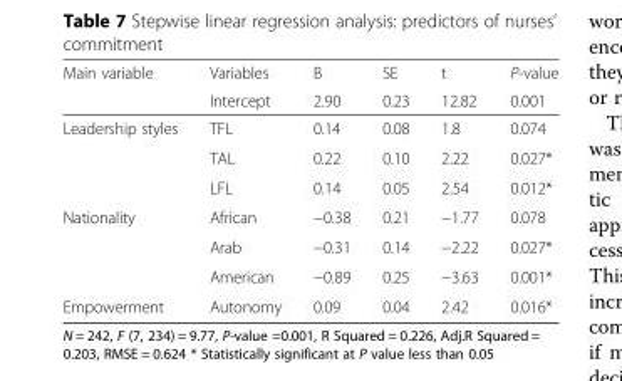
<table><thead><tr><td rowspan="2">Main variable</td><td rowspan="2">Variables Intercept</td><td rowspan="2">B 2.90</td><td rowspan="2">SE 0.23</td><td rowspan="2">t 12.82</td><td rowspan="2">P-value 0.001</td></tr><tr></tr></thead><tbody><tr><td rowspan="3">Leadership styles</td><td>TFL</td><td>0.14</td><td>0.08</td><td>1.8</td><td>0.074</td></tr><tr><td>TAL</td><td>0.22</td><td>0.10</td><td>2.22</td><td>0.027*</td></tr><tr><td>LFL</td><td>0.14</td><td>0.05</td><td>2.54</td><td>0.012*</td></tr><tr><td rowspan="3">Nationality</td><td>African</td><td>−0.38</td><td>0.21</td><td>−1.77</td><td>0.078</td></tr><tr><td>Arab</td><td>−0.31</td><td>0.14</td><td>−2.22</td><td>0.027*</td></tr><tr><td>American</td><td>−0.89</td><td>0.25</td><td>−3.63</td><td>0.001*</td></tr><tr><td>Empowerment</td><td>Autonomy</td><td>0.09</td><td>0.04</td><td>2.42</td><td>0.016*</td></tr></tbody></table>